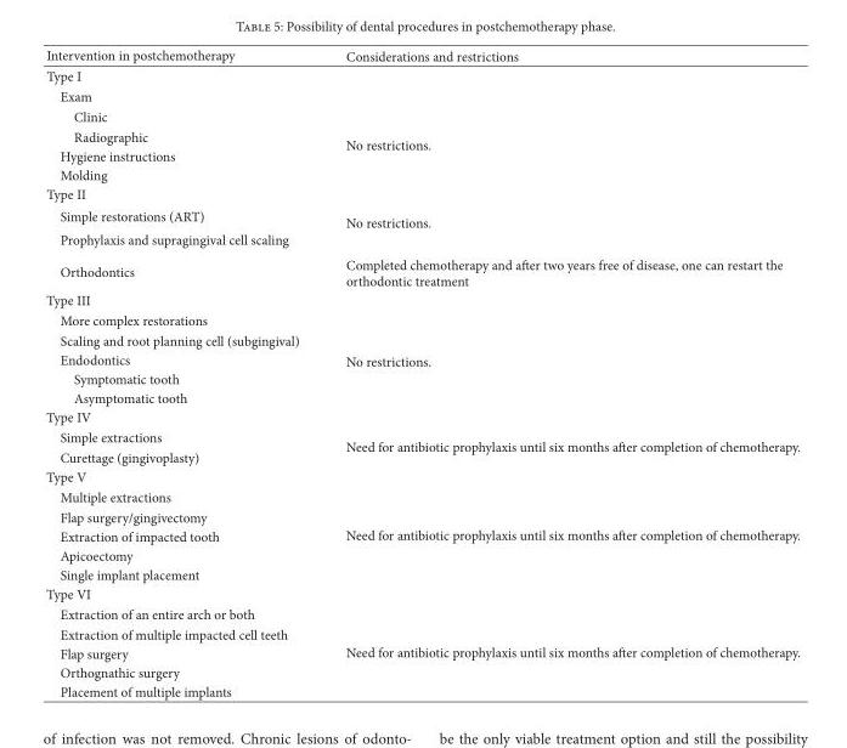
<table><thead><tr><td>Intervention in postchemotherapy</td><td>Considerations and restrictions</td></tr></thead><tbody><tr><td colspan="2">Type I</td></tr><tr><td colspan="2">Exam</td></tr><tr><td>Clinic</td><td rowspan="4">No restrictions.</td></tr><tr><td>Radiographic</td></tr><tr><td>Hygiene instructions</td></tr><tr><td>Molding</td></tr><tr><td colspan="2">Type II</td></tr><tr><td>Simple restorations (ART)</td><td rowspan="2">No restrictions.</td></tr><tr><td>Prophylaxis and supragingival cell scaling</td></tr><tr><td>Orthodontics</td><td>Completed chemotherapy and after two years free of disease, one can restart the orthodontic treatment</td></tr><tr><td colspan="2">Type III</td></tr><tr><td>More complex restorations</td><td rowspan="5">No restrictions.</td></tr><tr><td>Scaling and root planning cell (subgingival)</td></tr><tr><td>Endodontics</td></tr><tr><td>Symptomatic tooth</td></tr><tr><td>Asymptomatic tooth</td></tr><tr><td colspan="2">Type IV</td></tr><tr><td>Simple extractions</td><td rowspan="2">Need for antibiotic prophylaxis until six months after completion of chemotherapy.</td></tr><tr><td>Curettage (gingivoplasty)</td></tr><tr><td colspan="2">Type V</td></tr><tr><td>Multiple extractions</td><td rowspan="5">Need for antibiotic prophylaxis until six months after completion of chemotherapy.</td></tr><tr><td>Flap surgery/gingivectomy</td></tr><tr><td>Extraction of impacted tooth</td></tr><tr><td>Apicoectomy</td></tr><tr><td>Single implant placement</td></tr><tr><td colspan="2">Type VI</td></tr><tr><td>Extraction of an entire arch or both</td><td rowspan="5">Need for antibiotic prophylaxis until six months after completion of chemotherapy.</td></tr><tr><td>Extraction of multiple impacted cell teeth</td></tr><tr><td>Flap surgery</td></tr><tr><td>Orthognathic surgery</td></tr><tr><td>Placement of multiple implants</td></tr></tbody></table>